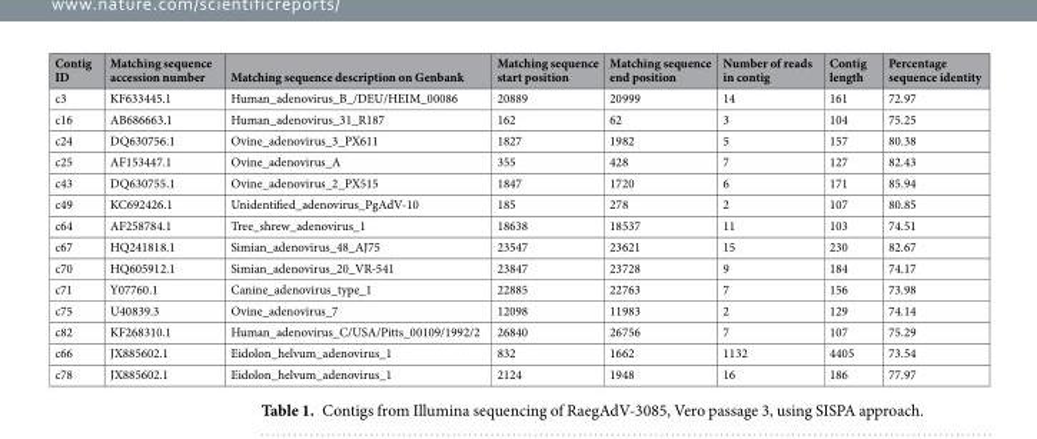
<table><thead><tr><td>Contig ID</td><td>Matching sequence accession number</td><td>Matching sequence description on Genbank</td><td>Matching sequence start position</td><td>Matching sequence end position</td><td>Number of reads in contig</td><td>Contig length</td><td>Percentage sequence identity</td></tr></thead><tbody><tr><td>c3</td><td>KF633445.1</td><td>Human_adenovirus_B_/DEU/HEIM_00086</td><td>20889</td><td>20999</td><td>14</td><td>161</td><td>72.97</td></tr><tr><td>c16</td><td>AB686663.1</td><td>Human_adenovirus_31_R187</td><td>162</td><td>62</td><td>3</td><td>104</td><td>75.25</td></tr><tr><td>c24</td><td>DQ630756.1</td><td>Ovine_adenovirus_3_PX611</td><td>1827</td><td>1982</td><td>5</td><td>157</td><td>80.38</td></tr><tr><td>c25</td><td>AF153447.1</td><td>Ovine_adenovirus_A</td><td>355</td><td>428</td><td>7</td><td>127</td><td>82.43</td></tr><tr><td>c43</td><td>DQ630755.1</td><td>Ovine_adenovirus_2_PX515</td><td>1847</td><td>1720</td><td>6</td><td>171</td><td>85.94</td></tr><tr><td>c49</td><td>KC692426.1</td><td>Unidentified_adenovirus_PgAdV-10</td><td>185</td><td>278</td><td>2</td><td>107</td><td>80.85</td></tr><tr><td>c64</td><td>AF258784.1</td><td>Tree_shrew_adenovirus_1</td><td>18638</td><td>18537</td><td>11</td><td>103</td><td>74.51</td></tr><tr><td>c67</td><td>HQ241818.1</td><td>Simian_adenovirus_48_AJ75</td><td>23547</td><td>23621</td><td>15</td><td>230</td><td>82.67</td></tr><tr><td>c70</td><td>HQ605912.1</td><td>Simian_adenovirus_20_VR-541</td><td>23847</td><td>23728</td><td>9</td><td>184</td><td>74.17</td></tr><tr><td>c71</td><td>Y07760.1</td><td>Canine_adenovirus_type_1</td><td>22885</td><td>22763</td><td>7</td><td>156</td><td>73.98</td></tr><tr><td>c75</td><td>U40839.3</td><td>Ovine_adenovirus_7</td><td>12098</td><td>11983</td><td>2</td><td>129</td><td>74.14</td></tr><tr><td>c82</td><td>KF268310.1</td><td>Human_adenovirus_C/USA/Pitts_00109/1992/2</td><td>26840</td><td>26756</td><td>7</td><td>107</td><td>75.29</td></tr><tr><td>c66</td><td>JX885602.1</td><td>Eidolon_helvum_adenovirus_1</td><td>832</td><td>1662</td><td>1132</td><td>4405</td><td>73.54</td></tr><tr><td>c78</td><td>JX885602.1</td><td>Eidolon_helvum_adenovirus_1</td><td>2124</td><td>1948</td><td>16</td><td>186</td><td>77.97</td></tr></tbody></table>